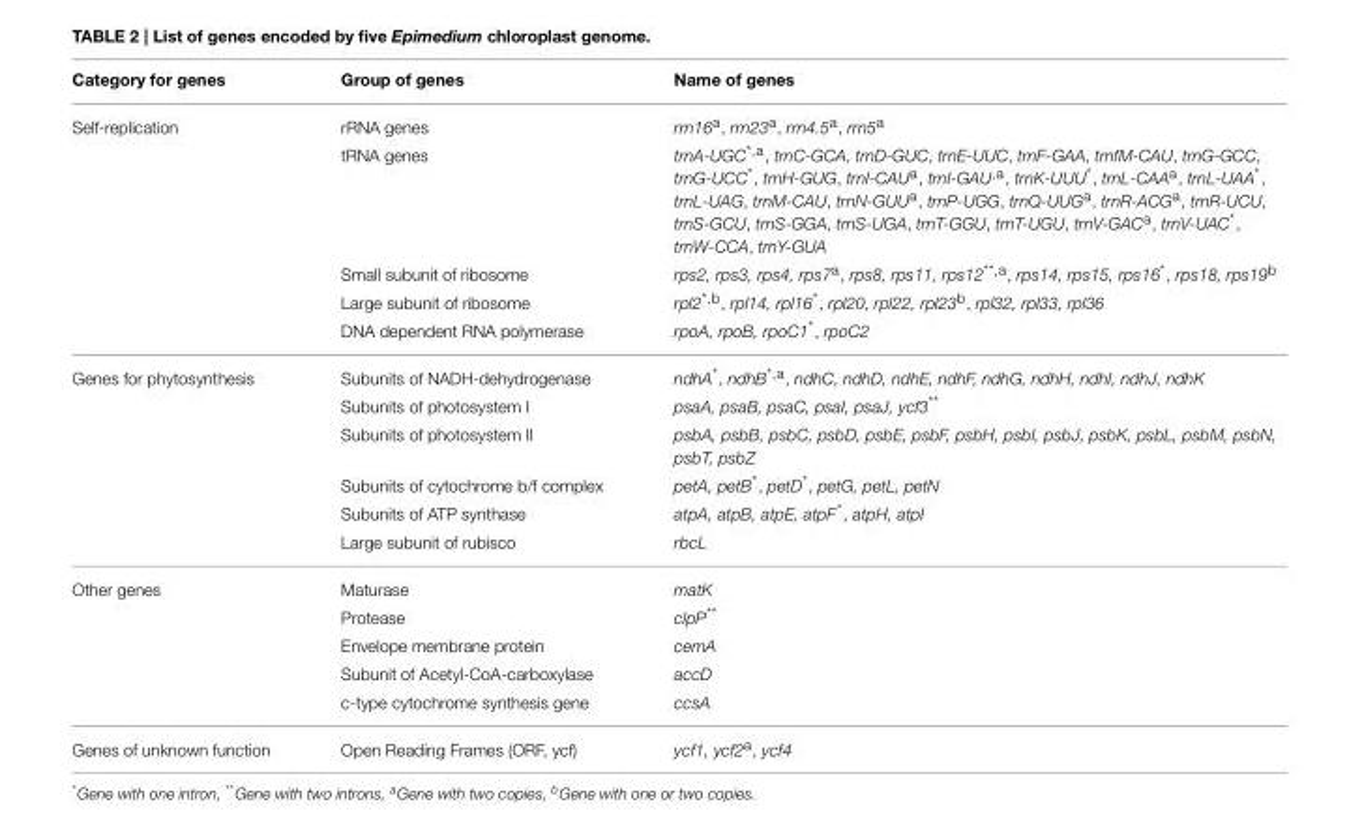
<table><thead><tr><td>Category for genes</td><td>Group of genes</td><td>Name of genes</td></tr></thead><tbody><tr><td rowspan="5">Self-replication</td><td>rRNA genes</td><td>rrn16<sup>a</sup>, rrn23<sup>a</sup>, rrn4.5<sup>a</sup>, rrn5<sup>a</sup></td></tr><tr><td>tRNA genes</td><td>trnA-UGC*,<sup>a</sup>, trnC-GCA, trnD-GUC, trnE-UUC, trnF-GAA, trnfM-CAU, trnG-GCC, trnG-UCC*, trnH-GUG, trnI-CAU<sup>a</sup>, trnI-GAU,<sup>a</sup>, trnK-UUU*, trnL-CAA<sup>a</sup>, trnL-UAA*, trnL-UAG, trnM-CAU, trnN-GUU<sup>a</sup>, trnP-UGG, trnQ-UUG<sup>a</sup>, trnR-ACG<sup>a</sup>, trnR-UCU, trnS-GCU, trnS-GGA, trnS-UGA, trnT-GGU, trnT-UGU, trnV-GAC<sup>a</sup>, trnV-UAC*, trnW-CCA, trnY-GUA</td></tr><tr><td>Small subunit of ribosome</td><td>rps2, rps3, rps4, rps7<sup>a</sup>, rps8, rps11, rps12**,<sup>a</sup>, rps14, rps15, rps16*, rps18, rps19<sup>b</sup></td></tr><tr><td>Large subunit of ribosome</td><td>rpl2*,<sup>b</sup>, rpl14, rpl16*, rpl20, rpl22, rpl23<sup>b</sup>, rpl32, rpl33, rpl36</td></tr><tr><td>DNA dependent RNA polymerase</td><td>rpoA, rpoB, rpoC1*, rpoC2</td></tr><tr><td rowspan="6">Genes for phytosynthesis</td><td>Subunits of NADH-dehydrogenase</td><td>ndhA*, ndhB*,<sup>a</sup>, ndhC, ndhD, ndhE, ndhF, ndhG, ndhH, ndhI, ndhJ, ndhK</td></tr><tr><td>Subunits of photosystem I</td><td>psaA, psaB, psaC, psaI, psaJ, ycf3**</td></tr><tr><td>Subunits of photosystem II</td><td>psbA, psbB, psbC, psbD, psbE, psbF, psbH, psbI, psbJ, psbK, psbL, psbM, psbN, psbT, psbZ</td></tr><tr><td>Subunits of cytochrome b/f complex</td><td>petA, petB*, petD*, petG, petL, petN</td></tr><tr><td>Subunits of ATP synthase</td><td>atpA, atpB, atpE, atpF*, atpH, atpI</td></tr><tr><td>Large subunit of rubisco</td><td>rbcL</td></tr><tr><td rowspan="5">Other genes</td><td>Maturase</td><td>matK</td></tr><tr><td>Protease</td><td>clpP**</td></tr><tr><td>Envelope membrane protein</td><td>cemA</td></tr><tr><td>Subunit of Acetyl-CoA-carboxylase</td><td>accD</td></tr><tr><td>c-type cytochrome synthesis gene</td><td>ccsA</td></tr><tr><td>Genes of unknown function</td><td>Open Reading Frames (ORF, ycf)</td><td>ycf1, ycf2<sup>a</sup>, ycf4</td></tr></tbody></table>